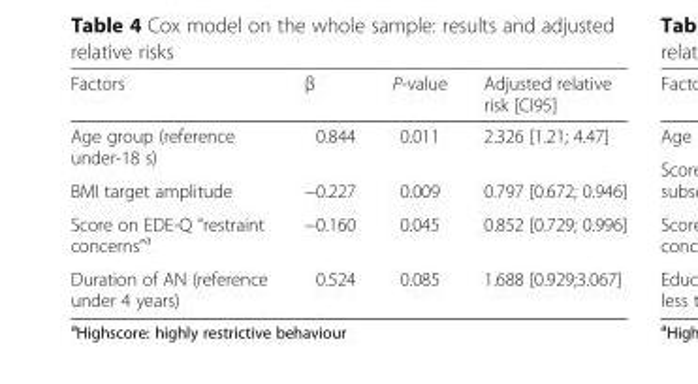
<table><thead><tr><td>Factors</td><td>β</td><td>P-value</td><td>Adjusted relative risk [CI95]</td></tr></thead><tbody><tr><td>Age group (reference under-18 s)</td><td>0.844</td><td>0.011</td><td>2.326 [1.21; 4.47]</td></tr><tr><td>BMI target amplitude</td><td>−0.227</td><td>0.009</td><td>0.797 [0.672; 0.946]</td></tr><tr><td>Score on EDE-Q “restraint concerns”<sup>a</sup></td><td>−0.160</td><td>0.045</td><td>0.852 [0.729; 0.996]</td></tr><tr><td>Duration of AN (reference under 4 years)</td><td>0.524</td><td>0.085</td><td>1.688 [0.929;3.067]</td></tr></tbody></table>